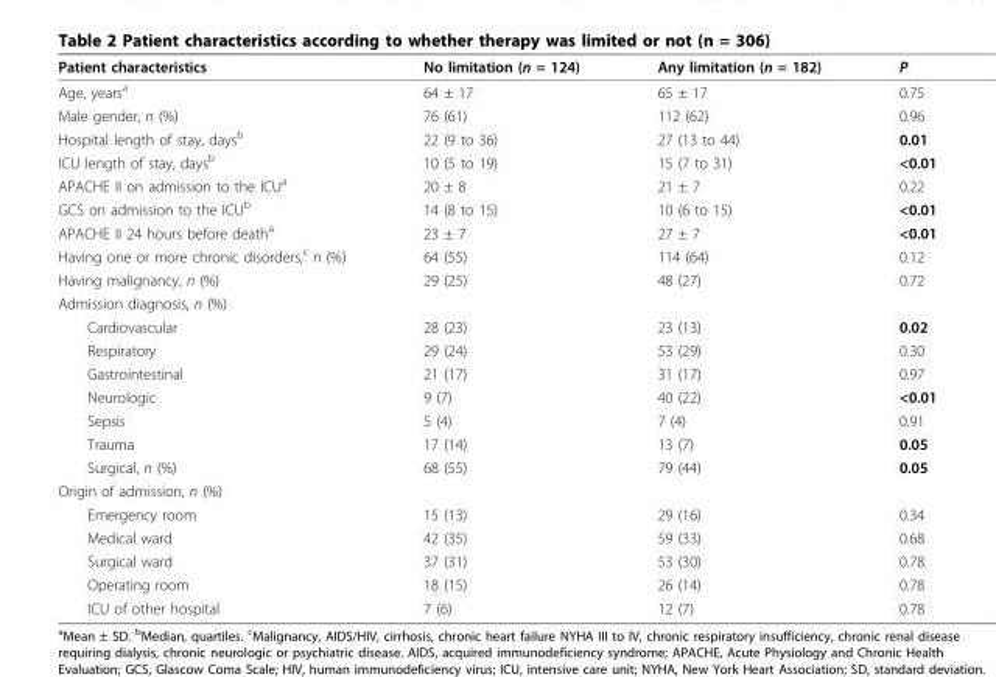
<table><thead><tr><td>Patient characteristics</td><td>No limitation (n = 124)</td><td>Any limitation (n = 182)</td><td>P</td></tr></thead><tbody><tr><td>Age, years<sup>a</sup></td><td>64 ± 17</td><td>65 ± 17</td><td>0.75</td></tr><tr><td>Male gender, n (%)</td><td>76 (61)</td><td>112 (62)</td><td>0.96</td></tr><tr><td>Hospital length of stay, days<sup>b</sup></td><td>22 (9 to 36)</td><td>27 (13 to 44)</td><td>0.01</td></tr><tr><td>ICU length of stay, days<sup>b</sup></td><td>10 (5 to 19)</td><td>15 (7 to 31)</td><td>&lt;0.01</td></tr><tr><td>APACHE II on admission to the ICU<sup>a</sup></td><td>20 ± 8</td><td>21 ± 7</td><td>0.22</td></tr><tr><td>GCS on admission to the ICU<sup>b</sup></td><td>14 (8 to 15)</td><td>10 (6 to 15)</td><td>&lt;0.01</td></tr><tr><td>APACHE II 24 hours before death<sup>a</sup></td><td>23 ± 7</td><td>27 ± 7</td><td>&lt;0.01</td></tr><tr><td>Having one or more chronic disorders,<sup>c</sup> n (%)</td><td>64 (55)</td><td>114 (64)</td><td>0.12</td></tr><tr><td>Having malignancy, n (%)</td><td>29 (25)</td><td>48 (27)</td><td>0.72</td></tr><tr><td colspan="4">Admission diagnosis, n (%)</td></tr><tr><td>Cardiovascular</td><td>28 (23)</td><td>23 (13)</td><td>0.02</td></tr><tr><td>Respiratory</td><td>29 (24)</td><td>53 (29)</td><td>0.30</td></tr><tr><td>Gastrointestinal</td><td>21 (17)</td><td>31 (17)</td><td>0.97</td></tr><tr><td>Neurologic</td><td>9 (7)</td><td>40 (22)</td><td>&lt;0.01</td></tr><tr><td>Sepsis</td><td>5 (4)</td><td>7 (4)</td><td>0.91</td></tr><tr><td>Trauma</td><td>17 (14)</td><td>13 (7)</td><td>0.05</td></tr><tr><td>Surgical, n (%)</td><td>68 (55)</td><td>79 (44)</td><td>0.05</td></tr><tr><td colspan="4">Origin of admission, n (%)</td></tr><tr><td>Emergency room</td><td>15 (13)</td><td>29 (16)</td><td>0.34</td></tr><tr><td>Medical ward</td><td>42 (35)</td><td>59 (33)</td><td>0.68</td></tr><tr><td>Surgical ward</td><td>37 (31)</td><td>53 (30)</td><td>0.78</td></tr><tr><td>Operating room</td><td>18 (15)</td><td>26 (14)</td><td>0.78</td></tr><tr><td>ICU of other hospital</td><td>7 (6)</td><td>12 (7)</td><td>0.78</td></tr></tbody></table>